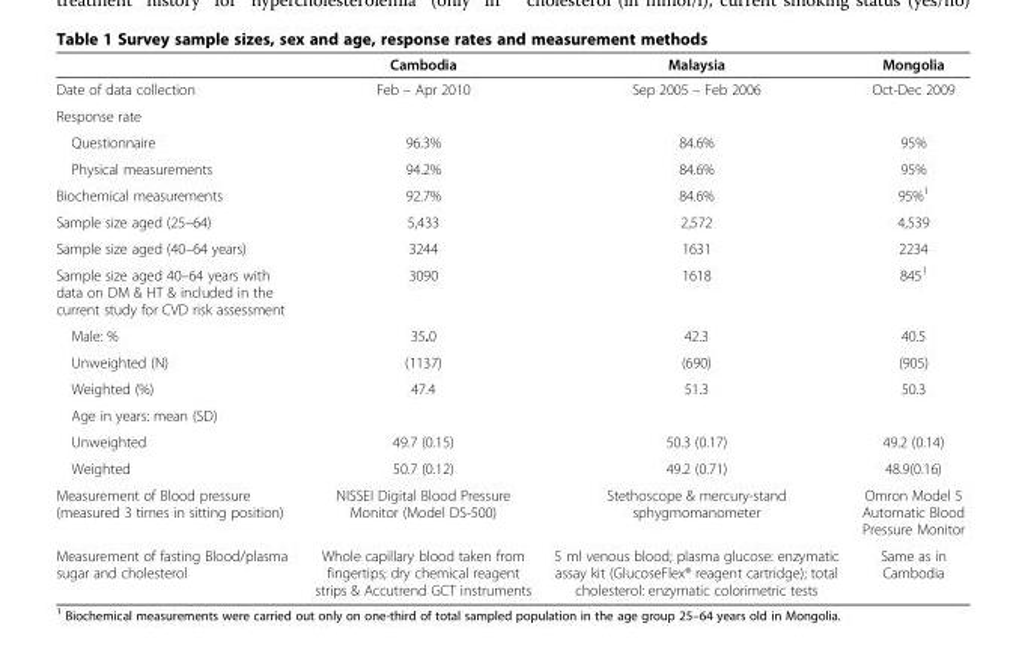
<table><thead><tr><td></td><td>Cambodia</td><td>Malaysia</td><td>Mongolia</td></tr></thead><tbody><tr><td>Date of data collection</td><td>Feb – Apr 2010</td><td>Sep 2005 – Feb 2006</td><td>Oct-Dec 2009</td></tr><tr><td colspan="4">Response rate</td></tr><tr><td>Questionnaire</td><td>96.3%</td><td>84.6%</td><td>95%</td></tr><tr><td>Physical measurements</td><td>94.2%</td><td>84.6%</td><td>95%</td></tr><tr><td>Biochemical measurements</td><td>92.7%</td><td>84.6%</td><td>95%<sup>1</sup></td></tr><tr><td>Sample size aged (25–64)</td><td>5,433</td><td>2,572</td><td>4,539</td></tr><tr><td>Sample size aged (40–64 years)</td><td>3244</td><td>1631</td><td>2234</td></tr><tr><td>Sample size aged 40–64 years with data on DM &amp; HT &amp; included in the current study for CVD risk assessment</td><td>3090</td><td>1618</td><td>845<sup>1</sup></td></tr><tr><td>Male: %</td><td>35.0</td><td>42.3</td><td>40.5</td></tr><tr><td>Unweighted (N)</td><td>(1137)</td><td>(690)</td><td>(905)</td></tr><tr><td>Weighted (%)</td><td>47.4</td><td>51.3</td><td>50.3</td></tr><tr><td colspan="4">Age in years: mean (SD)</td></tr><tr><td>Unweighted</td><td>49.7 (0.15)</td><td>50.3 (0.17)</td><td>49.2 (0.14)</td></tr><tr><td>Weighted</td><td>50.7 (0.12)</td><td>49.2 (0.71)</td><td>48.9(0.16)</td></tr><tr><td>Measurement of Blood pressure (measured 3 times in sitting position)</td><td>NISSEI Digital Blood Pressure Monitor (Model DS-500)</td><td>Stethoscope &amp; mercury-stand sphygmomanometer</td><td>Omron Model 5 Automatic Blood Pressure Monitor</td></tr><tr><td>Measurement of fasting Blood/plasma sugar and cholesterol</td><td>Whole capillary blood taken from fingertips; dry chemical reagent strips &amp; Accutrend GCT instruments</td><td>5 ml venous blood; plasma glucose: enzymatic assay kit (GlucoseFlex® reagent cartridge); total cholesterol: enzymatic colorimetric tests</td><td>Same as in Cambodia</td></tr></tbody></table>